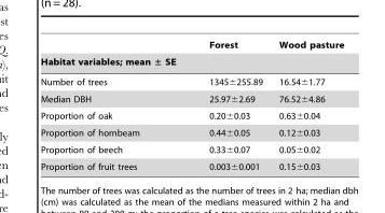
<table><thead><tr><td rowspan="2">Habitat variables; mean ± SE</td><td rowspan="2">Forest</td><td rowspan="2">Wood pasture</td></tr><tr></tr></thead><tbody><tr><td>Number of trees</td><td>1345±255.89</td><td>16.54±1.77</td></tr><tr><td>Median DBH</td><td>25.97±2.69</td><td>76.52±4.86</td></tr><tr><td>Proportion of oak</td><td>0.20±0.03</td><td>0.63±0.04</td></tr><tr><td>Proportion of hornbeam</td><td>0.44±0.05</td><td>0.12±0.03</td></tr><tr><td>Proportion of beech</td><td>0.33±0.07</td><td>0.05±0.02</td></tr><tr><td>Proportion of fruit trees</td><td>0.003±0.001</td><td>0.15±0.03</td></tr></tbody></table>